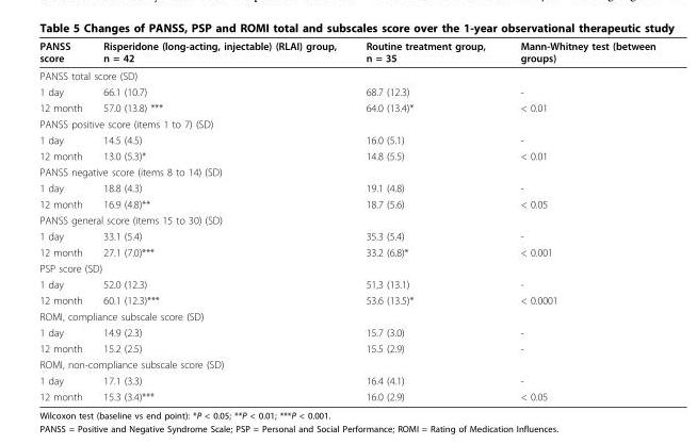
<table><thead><tr><td>PANSS score</td><td>Risperidone (long-acting, injectable) (RLAI) group, n = 42</td><td>Routine treatment group, n = 35</td><td>Mann-Whitney test (between groups)</td></tr></thead><tbody><tr><td colspan="4">PANSS total score (SD)</td></tr><tr><td>1 day</td><td>66.1 (10.7)</td><td>68.7 (12.3)</td><td>-</td></tr><tr><td>12 month</td><td>57.0 (13.8) ***</td><td>64.0 (13.4)*</td><td>&lt; 0.01</td></tr><tr><td colspan="4">PANSS positive score (items 1 to 7) (SD)</td></tr><tr><td>1 day</td><td>14.5 (4.5)</td><td>16.0 (5.1)</td><td>-</td></tr><tr><td>12 month</td><td>13.0 (5.3)*</td><td>14.8 (5.5)</td><td>&lt; 0.01</td></tr><tr><td colspan="4">PANSS negative score (items 8 to 14) (SD)</td></tr><tr><td>1 day</td><td>18.8 (4.3)</td><td>19.1 (4.8)</td><td>-</td></tr><tr><td>12 month</td><td>16.9 (4.8)**</td><td>18.7 (5.6)</td><td>&lt; 0.05</td></tr><tr><td colspan="4">PANSS general score (items 15 to 30) (SD)</td></tr><tr><td>1 day</td><td>33.1 (5.4)</td><td>35.3 (5.4)</td><td>-</td></tr><tr><td>12 month</td><td>27.1 (7.0)***</td><td>33.2 (6.8)*</td><td>&lt; 0.001</td></tr><tr><td colspan="4">PSP score (SD)</td></tr><tr><td>1 day</td><td>52.0 (12.3)</td><td>51,3 (13.1)</td><td>-</td></tr><tr><td>12 month</td><td>60.1 (12.3)***</td><td>53.6 (13.5)*</td><td>&lt; 0.0001</td></tr><tr><td colspan="4">ROMI, compliance subscale score (SD)</td></tr><tr><td>1 day</td><td>14.9 (2.3)</td><td>15.7 (3.0)</td><td>-</td></tr><tr><td>12 month</td><td>15.2 (2.5)</td><td>15.5 (2.9)</td><td>-</td></tr><tr><td colspan="4">ROMI, non-compliance subscale score (SD)</td></tr><tr><td>1 day</td><td>17.1 (3.3)</td><td>16.4 (4.1)</td><td>-</td></tr><tr><td>12 month</td><td>15.3 (3.4)***</td><td>16.0 (2.9)</td><td>&lt; 0.05</td></tr></tbody></table>